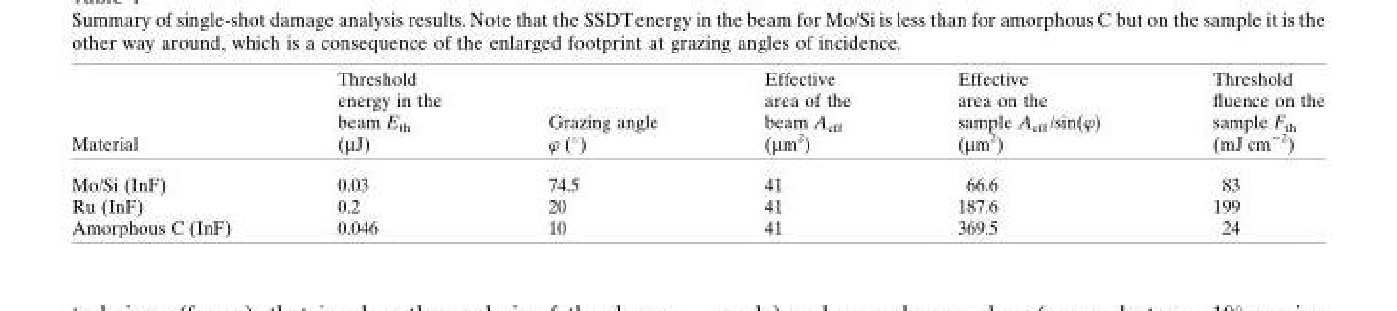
<table><thead><tr><td>Material</td><td>Threshold energy in the beam E<sub>th</sub> (µJ)</td><td>Grazing angle ’ (�)</td><td>Effective area of the beam A<sub>eff</sub> (µm<sup>2</sup>)</td><td>Effective area on the sample Aeff/sin(’) (mm2)</td><td>Threshold fluence on the sample F<sub>th</sub> (mJ cm<sup>−2</sup>)</td></tr></thead><tbody><tr><td>Mo/Si (InF)</td><td>0.03</td><td>74.5</td><td>41</td><td>66.6</td><td>83</td></tr><tr><td>Ru (InF)</td><td>0.2</td><td>20</td><td>41</td><td>187.6</td><td>199</td></tr><tr><td>Amorphous C (InF)</td><td>0.046</td><td>10</td><td>41</td><td>369.5</td><td>24</td></tr></tbody></table>